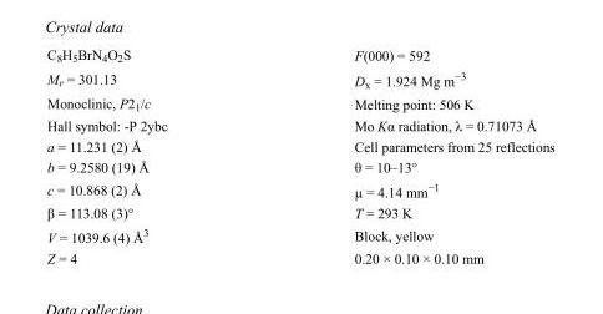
<table><tbody><tr><td>C<sub>8</sub>H<sub>5</sub>BrN<sub>4</sub>O<sub>2</sub>S</td><td>F(000) = 592</td></tr><tr><td>M<sub>r</sub> = 301.13</td><td>D<sub>x</sub> = 1.924 Mg m<sup>−3</sup></td></tr><tr><td>Monoclinic, P2<sub>1</sub>/c</td><td>Melting point: 506 K</td></tr><tr><td>Hall symbol: -P 2ybc</td><td>Mo Kα radiation, λ = 0.71073 Å</td></tr><tr><td>a = 11.231 (2) Å</td><td>Cell parameters from 25 reflections</td></tr><tr><td>b = 9.2580 (19) Å</td><td>θ = 10–13°</td></tr><tr><td>c = 10.868 (2) Å</td><td>µ = 4.14 mm<sup>−1</sup></td></tr><tr><td>β = 113.08 (3)°</td><td>T = 293 K</td></tr><tr><td>V = 1039.6 (4) Å<sup>3</sup></td><td>Block, yellow</td></tr><tr><td>Z = 4</td><td>0.20 × 0.10 × 0.10 mm</td></tr></tbody></table>